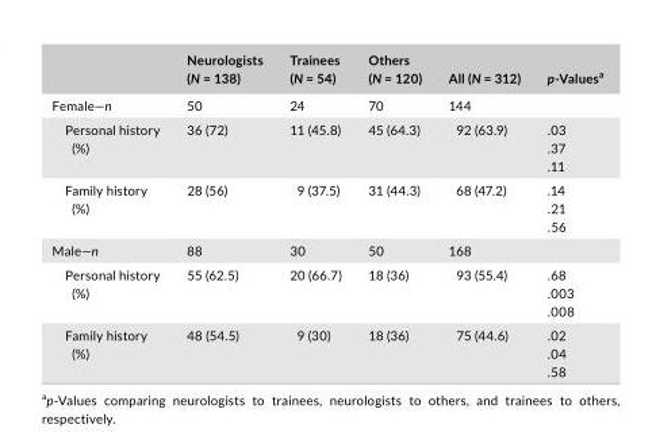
<table><thead><tr><td></td><td>Neurologists (N = 138)</td><td>Trainees (N = 54)</td><td>Others (N = 120)</td><td>All (N = 312)</td><td>p- Values<sup>a</sup></td></tr></thead><tbody><tr><td>Female—n</td><td>50</td><td>24</td><td>70</td><td>144</td><td></td></tr><tr><td>Personal history (%)</td><td>36 (72)</td><td>11 (45.8)</td><td>45 (64.3)</td><td>92 (63.9)</td><td>.03 .37 .11</td></tr><tr><td>Family history (%)</td><td>28 (56)</td><td>9 (37.5)</td><td>31 (44.3)</td><td>68 (47.2)</td><td>.14 .21 .56</td></tr><tr><td>Male—n</td><td>88</td><td>30</td><td>50</td><td>168</td><td></td></tr><tr><td>Personal history (%)</td><td>55 (62.5)</td><td>20 (66.7)</td><td>18 (36)</td><td>93 (55.4)</td><td>.68 .003 .008</td></tr><tr><td>Family history (%)</td><td>48 (54.5)</td><td>9 (30)</td><td>18 (36)</td><td>75 (44.6)</td><td>.02 .04 .58</td></tr></tbody></table>